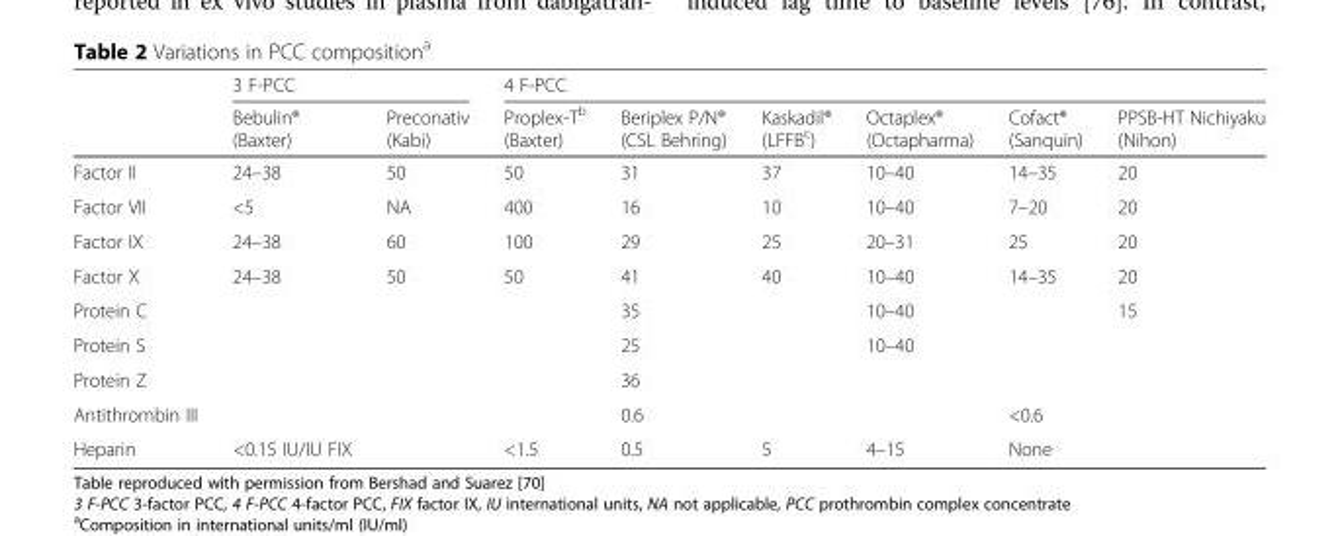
<table><thead><tr><td rowspan="2"></td><td colspan="2">3 F-PCC</td><td colspan="6">4 F-PCC</td></tr><tr><td>Bebulin® (Baxter)</td><td>Preconativ (Kabi)</td><td>Proplex-T<sup>b</sup> (Baxter)</td><td>Beriplex P/N® (CSL Behring)</td><td>Kaskadil® (LFFB<sup>c</sup>)</td><td>Octaplex® (Octapharma)</td><td>Cofact® (Sanquin)</td><td>PPSB-HT Nichiyaku (Nihon)</td></tr></thead><tbody><tr><td>Factor II</td><td>24–38</td><td>50</td><td>50</td><td>31</td><td>37</td><td>10–40</td><td>14–35</td><td>20</td></tr><tr><td>Factor VII</td><td>&lt;5</td><td>NA</td><td>400</td><td>16</td><td>10</td><td>10–40</td><td>7–20</td><td>20</td></tr><tr><td>Factor IX</td><td>24–38</td><td>60</td><td>100</td><td>29</td><td>25</td><td>20–31</td><td>25</td><td>20</td></tr><tr><td>Factor X</td><td>24–38</td><td>50</td><td>50</td><td>41</td><td>40</td><td>10–40</td><td>14–35</td><td>20</td></tr><tr><td>Protein C</td><td></td><td></td><td></td><td>35</td><td></td><td>10–40</td><td></td><td>15</td></tr><tr><td>Protein S</td><td></td><td></td><td></td><td>25</td><td></td><td>10–40</td><td></td><td></td></tr><tr><td>Protein Z</td><td></td><td></td><td></td><td>36</td><td></td><td></td><td></td><td></td></tr><tr><td>Antithrombin III</td><td></td><td></td><td></td><td>0.6</td><td></td><td></td><td>&lt;0.6</td><td></td></tr><tr><td>Heparin</td><td>&lt;0.15 IU/IU FIX</td><td></td><td>&lt;1.5</td><td>0.5</td><td>5</td><td>4–15</td><td>None</td><td></td></tr></tbody></table>